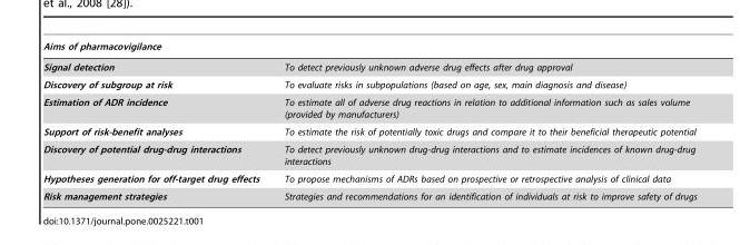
<table><thead><tr><td>Aims of pharmacovigilance</td><td></td></tr></thead><tbody><tr><td>Signal detection</td><td>To detect previously unknown adverse drug effects after drug approval</td></tr><tr><td>Discovery of subgroup at risk</td><td>To evaluate risks in subpopulations (based on age, sex, main diagnosis and disease)</td></tr><tr><td>Estimation of ADR incidence</td><td>To estimate all of adverse drug reactions in relation to additional information such as sales volume (provided by manufacturers)</td></tr><tr><td>Support of risk-benefit analyses</td><td>To estimate the risk of potentially toxic drugs and compare it to their beneficial therapeutic potential</td></tr><tr><td>Discovery of potential drug-drug interactions</td><td>To detect previously unknown drug-drug interactions and to estimate incidences of known drug-drug interactions</td></tr><tr><td>Hypotheses generation for off-target drug effects</td><td>To propose mechanisms of ADRs based on prospective or retrospective analysis of clinical data</td></tr><tr><td>Risk management strategies</td><td>Strategies and recommendations for an identification of individuals at risk to improve safety of drugs</td></tr></tbody></table>